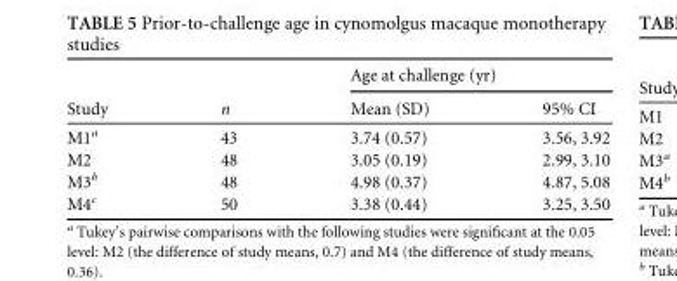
<table><thead><tr><td rowspan="2">Study</td><td rowspan="2">n</td><td colspan="2">Age at challenge (yr)</td></tr><tr><td>Mean (SD)</td><td>95% CI</td></tr></thead><tbody><tr><td>M1<sup>a</sup></td><td>43</td><td>3.74 (0.57)</td><td>3.56, 3.92</td></tr><tr><td>M2</td><td>48</td><td>3.05 (0.19)</td><td>2.99, 3.10</td></tr><tr><td>M3<sup>b</sup></td><td>48</td><td>4.98 (0.37)</td><td>4.87, 5.08</td></tr><tr><td>M4<sup>c</sup></td><td>50</td><td>3.38 (0.44)</td><td>3.25, 3.50</td></tr></tbody></table>